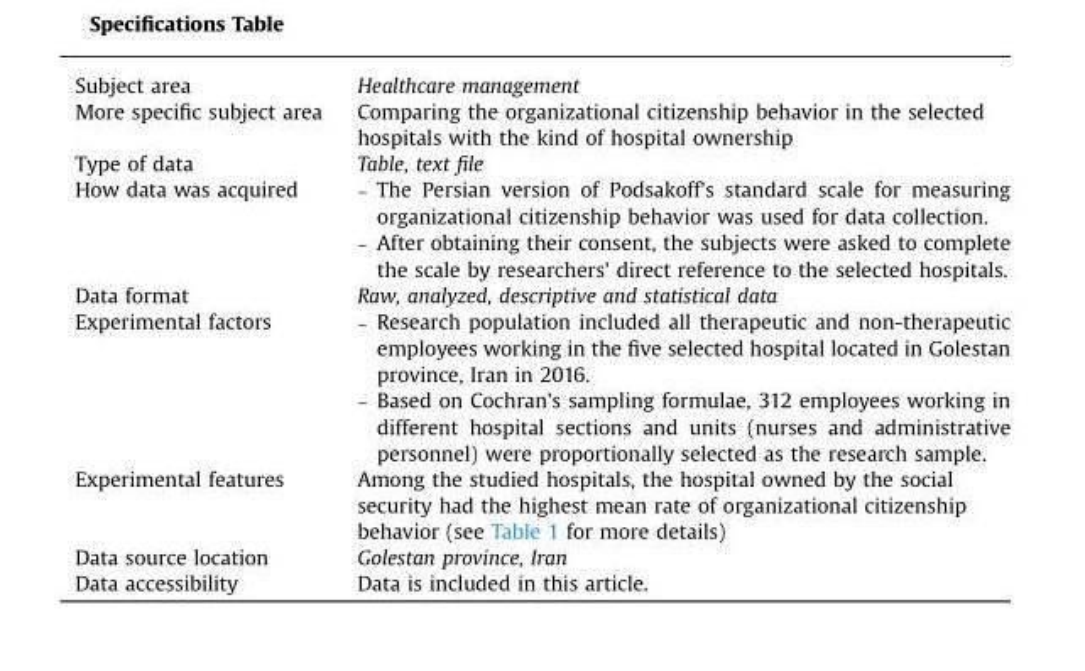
<table><thead><tr><td>Subject area</td><td>Healthcare management</td></tr></thead><tbody><tr><td>More specific subject area</td><td>Comparing the organizational citizenship behavior in the selected hospitals with the kind of hospital ownership</td></tr><tr><td>Type of data</td><td>Table, text file</td></tr><tr><td>How data was acquired</td><td>– The Persian version of Podsakoff&#x27;s standard scale for measuring organizational citizenship behavior was used for data collection. – After obtaining their consent, the subjects were asked to complete the scale by researchers&#x27; direct reference to the selected hospitals.</td></tr><tr><td>Data format</td><td>Raw, analyzed, descriptive and statistical data</td></tr><tr><td>Experimental factors</td><td>– Research population included all therapeutic and non-therapeutic employees working in the five selected hospital located in Golestan province, Iran in 2016. – Based on Cochran&#x27;s sampling formulae, 312 employees working in different hospital sections and units (nurses and administrative personnel) were proportionally selected as the research sample.</td></tr><tr><td>Experimental features</td><td>Among the studied hospitals, the hospital owned by the social security had the highest mean rate of organizational citizenship behavior (see Table 1 for more details)</td></tr><tr><td>Data source location</td><td>Golestan province, Iran</td></tr><tr><td>Data accessibility</td><td>Data is included in this article.</td></tr></tbody></table>